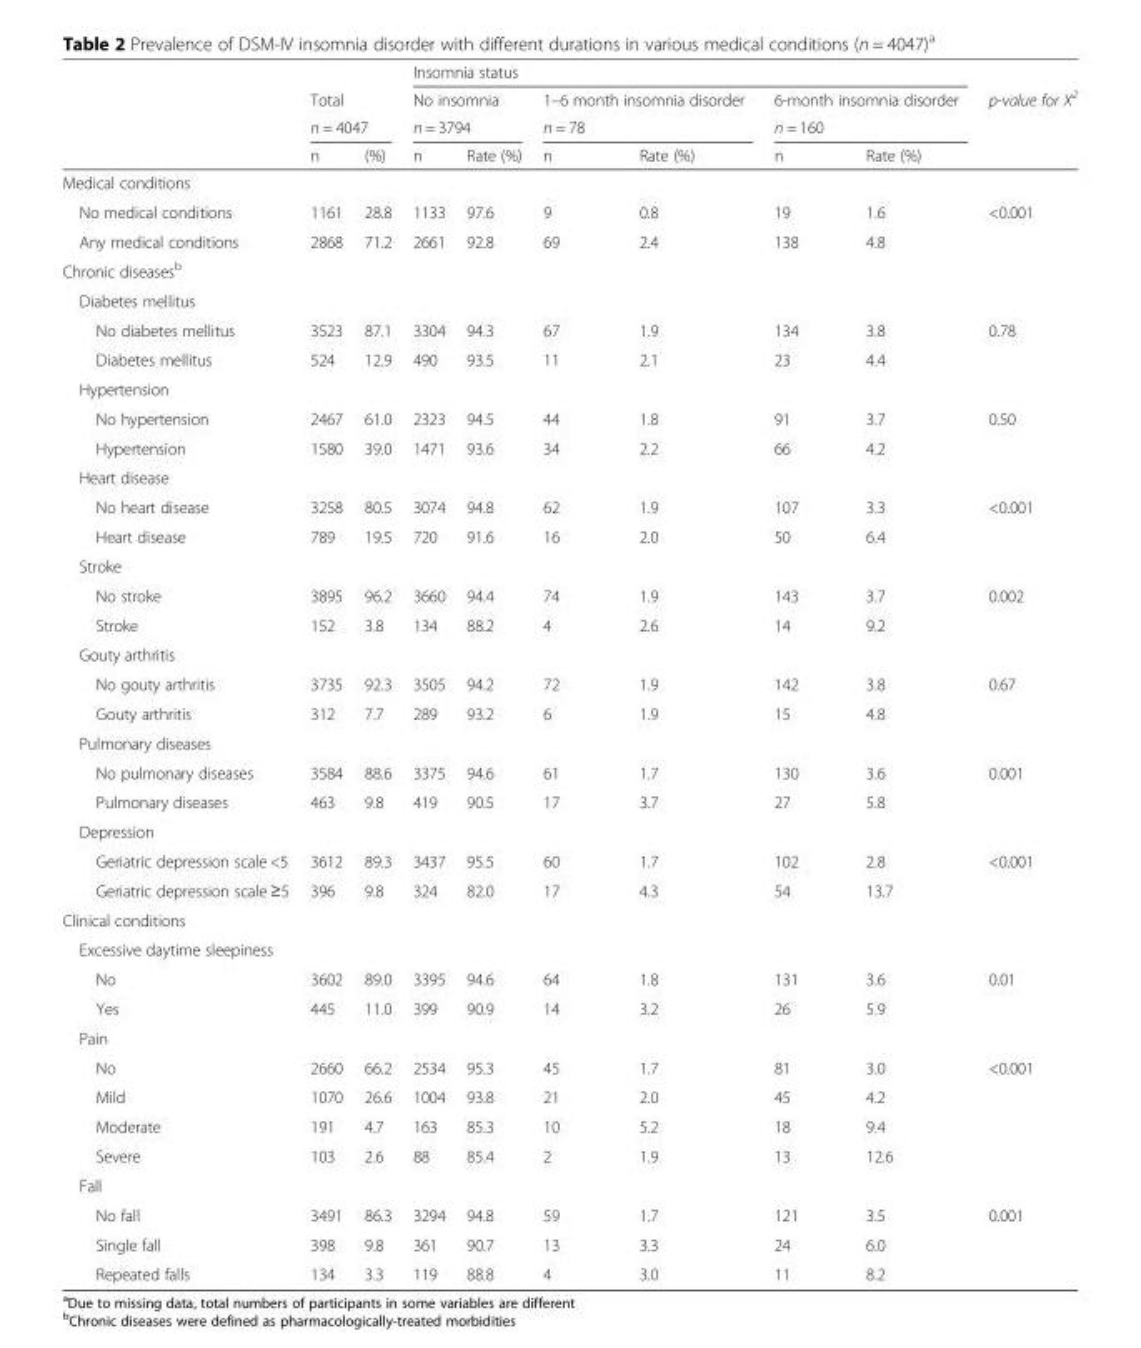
<table><thead><tr><td rowspan="4"></td><td rowspan="2">Total</td><td rowspan="2"></td><td colspan="6">Insomnia status</td><td rowspan="4">p-value for X<sup>2</sup></td></tr><tr><td rowspan="2" colspan="2">No insomnia n = 3794</td><td rowspan="2" colspan="2">1–6 month insomnia disorder n = 78</td><td rowspan="2" colspan="2">6-month insomnia disorder n = 160</td></tr><tr><td colspan="2">n = 4047</td></tr><tr><td>n</td><td>(%)</td><td>n</td><td>Rate (%)</td><td>n</td><td>Rate (%)</td><td>n</td><td>Rate (%)</td></tr></thead><tbody><tr><td colspan="10">Medical conditions</td></tr><tr><td>No medical conditions</td><td>1161</td><td>28.8</td><td>1133</td><td>97.6</td><td>9</td><td>0.8</td><td>19</td><td>1.6</td><td>&lt;0.001</td></tr><tr><td>Any medical conditions</td><td>2868</td><td>71.2</td><td>2661</td><td>92.8</td><td>69</td><td>2.4</td><td>138</td><td>4.8</td><td></td></tr><tr><td colspan="10">Chronic diseases<sup>b</sup></td></tr><tr><td colspan="10">Diabetes mellitus</td></tr><tr><td>No diabetes mellitus</td><td>3523</td><td>87.1</td><td>3304</td><td>94.3</td><td>67</td><td>1.9</td><td>134</td><td>3.8</td><td>0.78</td></tr><tr><td>Diabetes mellitus</td><td>524</td><td>12.9</td><td>490</td><td>93.5</td><td>11</td><td>2.1</td><td>23</td><td>4.4</td><td></td></tr><tr><td colspan="10">Hypertension</td></tr><tr><td>No hypertension</td><td>2467</td><td>61.0</td><td>2323</td><td>94.5</td><td>44</td><td>1.8</td><td>91</td><td>3.7</td><td>0.50</td></tr><tr><td>Hypertension</td><td>1580</td><td>39.0</td><td>1471</td><td>93.6</td><td>34</td><td>2.2</td><td>66</td><td>4.2</td><td></td></tr><tr><td colspan="10">Heart disease</td></tr><tr><td>No heart disease</td><td>3258</td><td>80.5</td><td>3074</td><td>94.8</td><td>62</td><td>1.9</td><td>107</td><td>3.3</td><td>&lt;0.001</td></tr><tr><td>Heart disease</td><td>789</td><td>19.5</td><td>720</td><td>91.6</td><td>16</td><td>2.0</td><td>50</td><td>6.4</td><td></td></tr><tr><td colspan="10">Stroke</td></tr><tr><td>No stroke</td><td>3895</td><td>96.2</td><td>3660</td><td>94.4</td><td>74</td><td>1.9</td><td>143</td><td>3.7</td><td>0.002</td></tr><tr><td>Stroke</td><td>152</td><td>3.8</td><td>134</td><td>88.2</td><td>4</td><td>2.6</td><td>14</td><td>9.2</td><td></td></tr><tr><td colspan="10">Gouty arthritis</td></tr><tr><td>No gouty arthritis</td><td>3735</td><td>92.3</td><td>3505</td><td>94.2</td><td>72</td><td>1.9</td><td>142</td><td>3.8</td><td>0.67</td></tr><tr><td>Gouty arthritis</td><td>312</td><td>7.7</td><td>289</td><td>93.2</td><td>6</td><td>1.9</td><td>15</td><td>4.8</td><td></td></tr><tr><td colspan="10">Pulmonary diseases</td></tr><tr><td>No pulmonary diseases</td><td>3584</td><td>88.6</td><td>3375</td><td>94.6</td><td>61</td><td>1.7</td><td>130</td><td>3.6</td><td>0.001</td></tr><tr><td>Pulmonary diseases</td><td>463</td><td>9.8</td><td>419</td><td>90.5</td><td>17</td><td>3.7</td><td>27</td><td>5.8</td><td></td></tr><tr><td colspan="10">Depression</td></tr><tr><td>Geriatric depression scale &lt;5</td><td>3612</td><td>89.3</td><td>3437</td><td>95.5</td><td>60</td><td>1.7</td><td>102</td><td>2.8</td><td>&lt;0.001</td></tr><tr><td>Geriatric depression scale ≥5</td><td>396</td><td>9.8</td><td>324</td><td>82.0</td><td>17</td><td>4.3</td><td>54</td><td>13.7</td><td></td></tr><tr><td colspan="10">Clinical conditions</td></tr><tr><td colspan="10">Excessive daytime sleepiness</td></tr><tr><td>No</td><td>3602</td><td>89.0</td><td>3395</td><td>94.6</td><td>64</td><td>1.8</td><td>131</td><td>3.6</td><td>0.01</td></tr><tr><td>Yes</td><td>445</td><td>11.0</td><td>399</td><td>90.9</td><td>14</td><td>3.2</td><td>26</td><td>5.9</td><td></td></tr><tr><td colspan="10">Pain</td></tr><tr><td>No</td><td>2660</td><td>66.2</td><td>2534</td><td>95.3</td><td>45</td><td>1.7</td><td>81</td><td>3.0</td><td>&lt;0.001</td></tr><tr><td>Mild</td><td>1070</td><td>26.6</td><td>1004</td><td>93.8</td><td>21</td><td>2.0</td><td>45</td><td>4.2</td><td></td></tr><tr><td>Moderate</td><td>191</td><td>4.7</td><td>163</td><td>85.3</td><td>10</td><td>5.2</td><td>18</td><td>9.4</td><td></td></tr><tr><td>Severe</td><td>103</td><td>2.6</td><td>88</td><td>85.4</td><td>2</td><td>1.9</td><td>13</td><td>12.6</td><td></td></tr><tr><td colspan="10">Fall</td></tr><tr><td>No fall</td><td>3491</td><td>86.3</td><td>3294</td><td>94.8</td><td>59</td><td>1.7</td><td>121</td><td>3.5</td><td>0.001</td></tr><tr><td>Single fall</td><td>398</td><td>9.8</td><td>361</td><td>90.7</td><td>13</td><td>3.3</td><td>24</td><td>6.0</td><td></td></tr><tr><td>Repeated falls</td><td>134</td><td>3.3</td><td>119</td><td>88.8</td><td>4</td><td>3.0</td><td>11</td><td>8.2</td><td></td></tr></tbody></table>